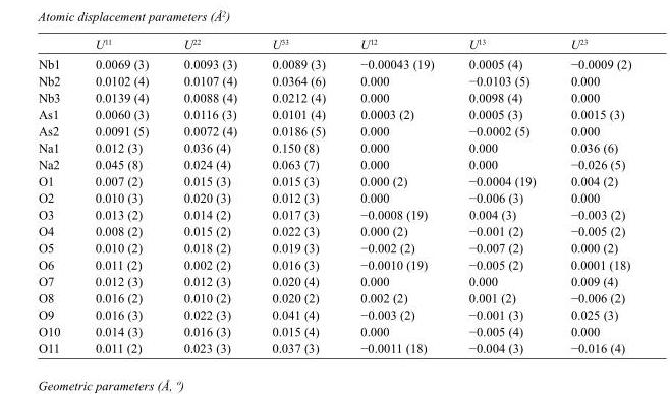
<table><thead><tr><td></td><td>U<sup>11</sup></td><td>U<sup>22</sup></td><td>U<sup>33</sup></td><td>U<sup>12</sup></td><td>U<sup>13</sup></td><td>U<sup>23</sup></td></tr></thead><tbody><tr><td>Nb1</td><td>0.0069 (3)</td><td>0.0093 (3)</td><td>0.0089 (3)</td><td>−0.00043 (19)</td><td>0.0005 (4)</td><td>−0.0009 (2)</td></tr><tr><td>Nb2</td><td>0.0102 (4)</td><td>0.0107 (4)</td><td>0.0364 (6)</td><td>0.000</td><td>−0.0103 (5)</td><td>0.000</td></tr><tr><td>Nb3</td><td>0.0139 (4)</td><td>0.0088 (4)</td><td>0.0212 (4)</td><td>0.000</td><td>0.0098 (4)</td><td>0.000</td></tr><tr><td>As1</td><td>0.0060 (3)</td><td>0.0116 (3)</td><td>0.0101 (4)</td><td>0.0003 (2)</td><td>0.0005 (3)</td><td>0.0015 (3)</td></tr><tr><td>As2</td><td>0.0091 (5)</td><td>0.0072 (4)</td><td>0.0186 (5)</td><td>0.000</td><td>−0.0002 (5)</td><td>0.000</td></tr><tr><td>Na1</td><td>0.012 (3)</td><td>0.036 (4)</td><td>0.150 (8)</td><td>0.000</td><td>0.000</td><td>0.036 (6)</td></tr><tr><td>Na2</td><td>0.045 (8)</td><td>0.024 (4)</td><td>0.063 (7)</td><td>0.000</td><td>0.000</td><td>−0.026 (5)</td></tr><tr><td>O1</td><td>0.007 (2)</td><td>0.015 (3)</td><td>0.015 (3)</td><td>0.000 (2)</td><td>−0.0004 (19)</td><td>0.004 (2)</td></tr><tr><td>O2</td><td>0.010 (3)</td><td>0.020 (3)</td><td>0.012 (3)</td><td>0.000</td><td>−0.006 (3)</td><td>0.000</td></tr><tr><td>O3</td><td>0.013 (2)</td><td>0.014 (2)</td><td>0.017 (3)</td><td>−0.0008 (19)</td><td>0.004 (3)</td><td>−0.003 (2)</td></tr><tr><td>O4</td><td>0.008 (2)</td><td>0.015 (2)</td><td>0.022 (3)</td><td>0.000 (2)</td><td>−0.001 (2)</td><td>−0.005 (2)</td></tr><tr><td>O5</td><td>0.010 (2)</td><td>0.018 (2)</td><td>0.019 (3)</td><td>−0.002 (2)</td><td>−0.007 (2)</td><td>0.000 (2)</td></tr><tr><td>O6</td><td>0.011 (2)</td><td>0.002 (2)</td><td>0.016 (3)</td><td>−0.0010 (19)</td><td>−0.005 (2)</td><td>0.0001 (18)</td></tr><tr><td>O7</td><td>0.012 (3)</td><td>0.012 (3)</td><td>0.020 (4)</td><td>0.000</td><td>0.000</td><td>0.009 (4)</td></tr><tr><td>O8</td><td>0.016 (2)</td><td>0.010 (2)</td><td>0.020 (2)</td><td>0.002 (2)</td><td>0.001 (2)</td><td>−0.006 (2)</td></tr><tr><td>O9</td><td>0.016 (3)</td><td>0.022 (3)</td><td>0.041 (4)</td><td>−0.003 (2)</td><td>−0.001 (3)</td><td>0.025 (3)</td></tr><tr><td>O10</td><td>0.014 (3)</td><td>0.016 (3)</td><td>0.015 (4)</td><td>0.000</td><td>−0.005 (4)</td><td>0.000</td></tr><tr><td>O11</td><td>0.011 (2)</td><td>0.023 (3)</td><td>0.037 (3)</td><td>−0.0011 (18)</td><td>−0.004 (3)</td><td>−0.016 (4)</td></tr></tbody></table>